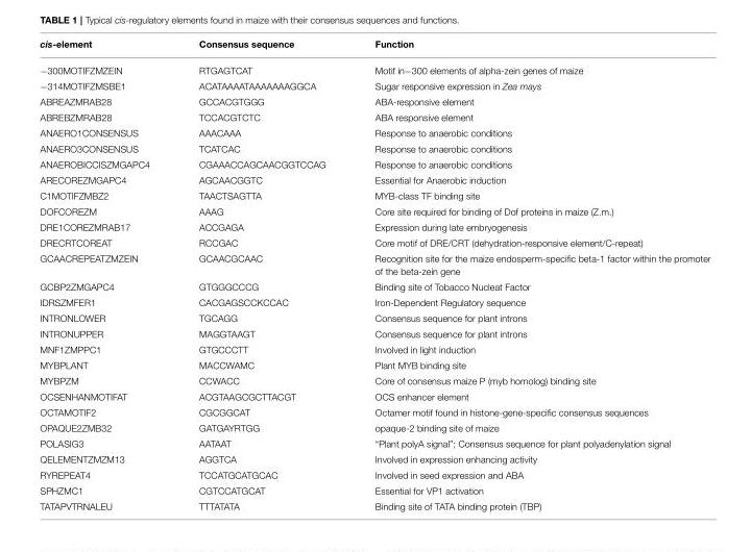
<table><thead><tr><td>cis-element</td><td>Consensus sequence</td><td>Function</td></tr></thead><tbody><tr><td>−300MOTIFZMZEIN</td><td>RTGAGTCAT</td><td>Motif in−300 elements of alpha-zein genes of maize</td></tr><tr><td>−314MOTIFZMSBE1</td><td>ACATAAAATAAAAAAAGGCA</td><td>Sugar responsive expression in Zea mays</td></tr><tr><td>ABREAZMRAB28</td><td>GCCACGTGGG</td><td>ABA-responsive element</td></tr><tr><td>ABREBZMRAB28</td><td>TCCACGTCTC</td><td>ABA responsive element</td></tr><tr><td>ANAERO1CONSENSUS</td><td>AAACAAA</td><td>Response to anaerobic conditions</td></tr><tr><td>ANAERO3CONSENSUS</td><td>TCATCAC</td><td>Response to anaerobic conditions</td></tr><tr><td>ANAEROBICCISZMGAPC4</td><td>CGAAACCAGCAACGGTCCAG</td><td>Response to anaerobic conditions</td></tr><tr><td>ARECOREZMGAPC4</td><td>AGCAACGGTC</td><td>Essential for Anaerobic induction</td></tr><tr><td>C1MOTIFZMBZ2</td><td>TAACTSAGTTA</td><td>MYB-class TF binding site</td></tr><tr><td>DOFCOREZM</td><td>AAAG</td><td>Core site required for binding of Dof proteins in maize (Z.m.)</td></tr><tr><td>DRE1COREZMRAB17</td><td>ACCGAGA</td><td>Expression during late embryogenesis</td></tr><tr><td>DRECRTCOREAT</td><td>RCCGAC</td><td>Core motif of DRE/CRT (dehydration-responsive element/C-repeat)</td></tr><tr><td>GCAACREPEATZMZEIN</td><td>GCAACGCAAC</td><td>Recognition site for the maize endosperm-specific beta-1 factor within the promoter of the beta-zein gene</td></tr><tr><td>GCBP2ZMGAPC4</td><td>GTGGGCCCG</td><td>Binding site of Tobacco Nucleat Factor</td></tr><tr><td>IDRSZMFER1</td><td>CACGAGSCCKCCAC</td><td>Iron-Dependent Regulatory sequence</td></tr><tr><td>INTRONLOWER</td><td>TGCAGG</td><td>Consensus sequence for plant introns</td></tr><tr><td>INTRONUPPER</td><td>MAGGTAAGT</td><td>Consensus sequence for plant introns</td></tr><tr><td>MNF1ZMPPC1</td><td>GTGCCCTT</td><td>Involved in light induction</td></tr><tr><td>MYBPLANT</td><td>MACCWAMC</td><td>Plant MYB binding site</td></tr><tr><td>MYBPZM</td><td>CCWACC</td><td>Core of consensus maize P (myb homolog) binding site</td></tr><tr><td>OCSENHANMOTIFAT</td><td>ACGTAAGCGCTTACGT</td><td>OCS enhancer element</td></tr><tr><td>OCTAMOTIF2</td><td>CGCGGCAT</td><td>Octamer motif found in histone-gene-specific consensus sequences</td></tr><tr><td>OPAQUE2ZMB32</td><td>GATGAYRTGG</td><td>opaque-2 binding site of maize</td></tr><tr><td>POLASIG3</td><td>AATAAT</td><td>“Plant polyA signal”; Consensus sequence for plant polyadenylation signal</td></tr><tr><td>QELEMENTZMZM13</td><td>AGGTCA</td><td>Involved in expression enhancing activity</td></tr><tr><td>RYREPEAT4</td><td>TCCATGCATGCAC</td><td>Involved in seed expression and ABA</td></tr><tr><td>SPHZMC1</td><td>CGTCCATGCAT</td><td>Essential for VP1 activation</td></tr><tr><td>TATAPVTRNALEU</td><td>TTTATATA</td><td>Binding site of TATA binding protein (TBP)</td></tr></tbody></table>